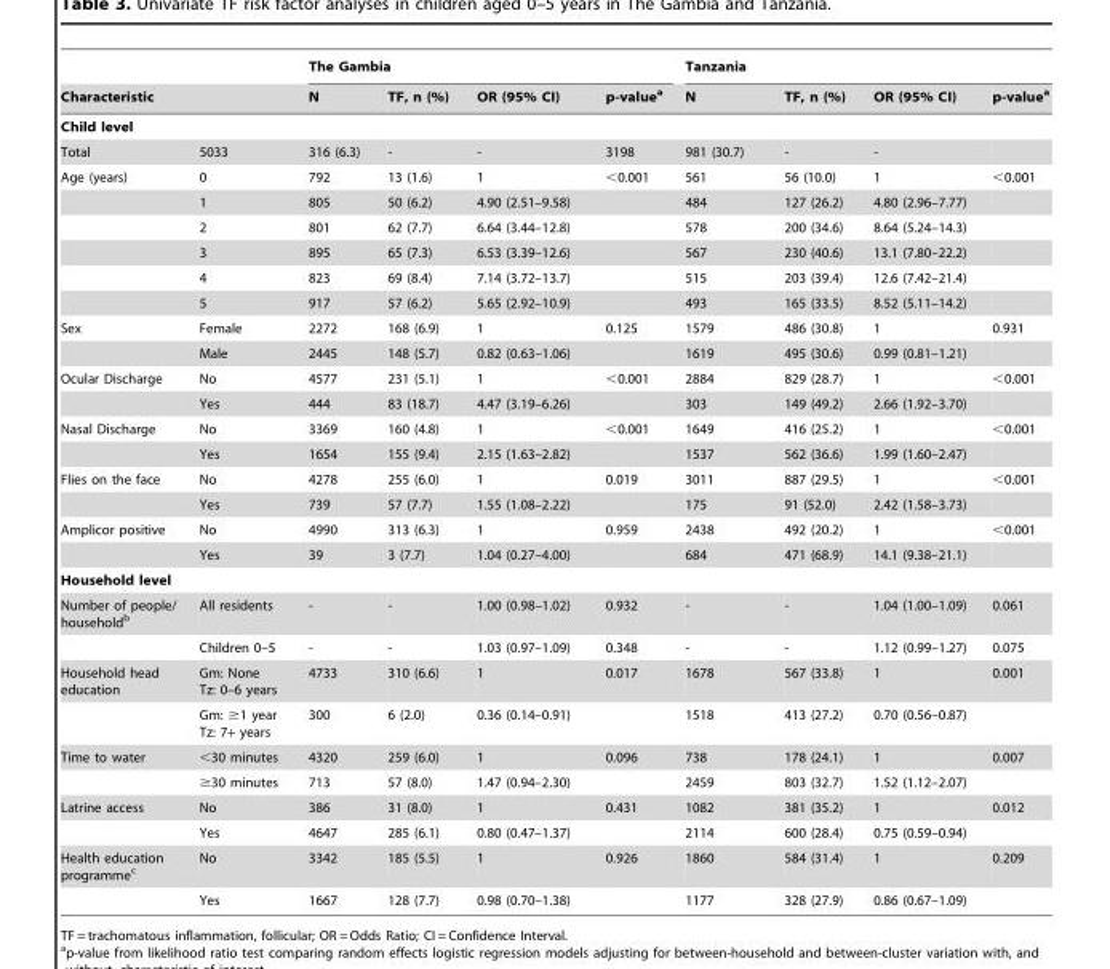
<table><thead><tr><td></td><td></td><td colspan="4">The Gambia</td><td colspan="4">Tanzania</td></tr><tr><td colspan="2">Characteristic</td><td>N</td><td>TF, n (%)</td><td>OR (95% CI)</td><td>p-value<sup>a</sup></td><td>N</td><td>TF, n (%)</td><td>OR (95% CI)</td><td>p-value<sup>a</sup></td></tr></thead><tbody><tr><td colspan="10">Child level</td></tr><tr><td>Total</td><td>5033</td><td>316 (6.3)</td><td>-</td><td>-</td><td>3198</td><td>981 (30.7)</td><td>-</td><td>-</td><td></td></tr><tr><td rowspan="6">Age (years)</td><td>0</td><td>792</td><td>13 (1.6)</td><td>1</td><td>&lt;0.001</td><td>561</td><td>56 (10.0)</td><td>1</td><td>&lt;0.001</td></tr><tr><td>1</td><td>805</td><td>50 (6.2)</td><td>4.90 (2.51–9.58)</td><td></td><td>484</td><td>127 (26.2)</td><td>4.80 (2.96–7.77)</td><td></td></tr><tr><td>2</td><td>801</td><td>62 (7.7)</td><td>6.64 (3.44–12.8)</td><td></td><td>578</td><td>200 (34.6)</td><td>8.64 (5.24–14.3)</td><td></td></tr><tr><td>3</td><td>895</td><td>65 (7.3)</td><td>6.53 (3.39–12.6)</td><td></td><td>567</td><td>230 (40.6)</td><td>13.1 (7.80–22.2)</td><td></td></tr><tr><td>4</td><td>823</td><td>69 (8.4)</td><td>7.14 (3.72–13.7)</td><td></td><td>515</td><td>203 (39.4)</td><td>12.6 (7.42–21.4)</td><td></td></tr><tr><td>5</td><td>917</td><td>57 (6.2)</td><td>5.65 (2.92–10.9)</td><td></td><td>493</td><td>165 (33.5)</td><td>8.52 (5.11–14.2)</td><td></td></tr><tr><td rowspan="2">Sex</td><td>Female</td><td>2272</td><td>168 (6.9)</td><td>1</td><td>0.125</td><td>1579</td><td>486 (30.8)</td><td>1</td><td>0.931</td></tr><tr><td>Male</td><td>2445</td><td>148 (5.7)</td><td>0.82 (0.63–1.06)</td><td></td><td>1619</td><td>495 (30.6)</td><td>0.99 (0.81–1.21)</td><td></td></tr><tr><td rowspan="2">Ocular Discharge</td><td>No</td><td>4577</td><td>231 (5.1)</td><td>1</td><td>&lt;0.001</td><td>2884</td><td>829 (28.7)</td><td>1</td><td>&lt;0.001</td></tr><tr><td>Yes</td><td>444</td><td>83 (18.7)</td><td>4.47 (3.19–6.26)</td><td></td><td>303</td><td>149 (49.2)</td><td>2.66 (1.92–3.70)</td><td></td></tr><tr><td rowspan="2">Nasal Discharge</td><td>No</td><td>3369</td><td>160 (4.8)</td><td>1</td><td>&lt;0.001</td><td>1649</td><td>416 (25.2)</td><td>1</td><td>&lt;0.001</td></tr><tr><td>Yes</td><td>1654</td><td>155 (9.4)</td><td>2.15 (1.63–2.82)</td><td></td><td>1537</td><td>562 (36.6)</td><td>1.99 (1.60–2.47)</td><td></td></tr><tr><td rowspan="2">Flies on the face</td><td>No</td><td>4278</td><td>255 (6.0)</td><td>1</td><td>0.019</td><td>3011</td><td>887 (29.5)</td><td>1</td><td>&lt;0.001</td></tr><tr><td>Yes</td><td>739</td><td>57 (7.7)</td><td>1.55 (1.08–2.22)</td><td></td><td>175</td><td>91 (52.0)</td><td>2.42 (1.58–3.73)</td><td></td></tr><tr><td rowspan="2">Amplicor positive</td><td>No</td><td>4990</td><td>313 (6.3)</td><td>1</td><td>0.959</td><td>2438</td><td>492 (20.2)</td><td>1</td><td>&lt;0.001</td></tr><tr><td>Yes</td><td>39</td><td>3 (7.7)</td><td>1.04 (0.27–4.00)</td><td></td><td>684</td><td>471 (68.9)</td><td>14.1 (9.38–21.1)</td><td></td></tr><tr><td colspan="10">Household level</td></tr><tr><td rowspan="2">Number of people/ household<sup>b</sup></td><td>All residents</td><td>-</td><td>-</td><td>1.00 (0.98–1.02)</td><td>0.932</td><td>-</td><td>-</td><td>1.04 (1.00–1.09)</td><td>0.061</td></tr><tr><td>Children 0–5</td><td>-</td><td>-</td><td>1.03 (0.97–1.09)</td><td>0.348</td><td>-</td><td>-</td><td>1.12 (0.99–1.27)</td><td>0.075</td></tr><tr><td rowspan="2">Household head education</td><td>Gm: None Tz: 0–6 years</td><td>4733</td><td>310 (6.6)</td><td>1</td><td>0.017</td><td>1678</td><td>567 (33.8)</td><td>1</td><td>0.001</td></tr><tr><td>Gm: ≥1 year Tz: 7+ years</td><td>300</td><td>6 (2.0)</td><td>0.36 (0.14–0.91)</td><td></td><td>1518</td><td>413 (27.2)</td><td>0.70 (0.56–0.87)</td><td></td></tr><tr><td rowspan="2">Time to water</td><td>&lt;30 minutes</td><td>4320</td><td>259 (6.0)</td><td>1</td><td>0.096</td><td>738</td><td>178 (24.1)</td><td>1</td><td>0.007</td></tr><tr><td>≥30 minutes</td><td>713</td><td>57 (8.0)</td><td>1.47 (0.94–2.30)</td><td></td><td>2459</td><td>803 (32.7)</td><td>1.52 (1.12–2.07)</td><td></td></tr><tr><td rowspan="2">Latrine access</td><td>No</td><td>386</td><td>31 (8.0)</td><td>1</td><td>0.431</td><td>1082</td><td>381 (35.2)</td><td>1</td><td>0.012</td></tr><tr><td>Yes</td><td>4647</td><td>285 (6.1)</td><td>0.80 (0.47–1.37)</td><td></td><td>2114</td><td>600 (28.4)</td><td>0.75 (0.59–0.94)</td><td></td></tr><tr><td rowspan="2">Health education programme<sup>c</sup></td><td>No</td><td>3342</td><td>185 (5.5)</td><td>1</td><td>0.926</td><td>1860</td><td>584 (31.4)</td><td>1</td><td>0.209</td></tr><tr><td>Yes</td><td>1667</td><td>128 (7.7)</td><td>0.98 (0.70–1.38)</td><td></td><td>1177</td><td>328 (27.9)</td><td>0.86 (0.67–1.09)</td><td></td></tr></tbody></table>